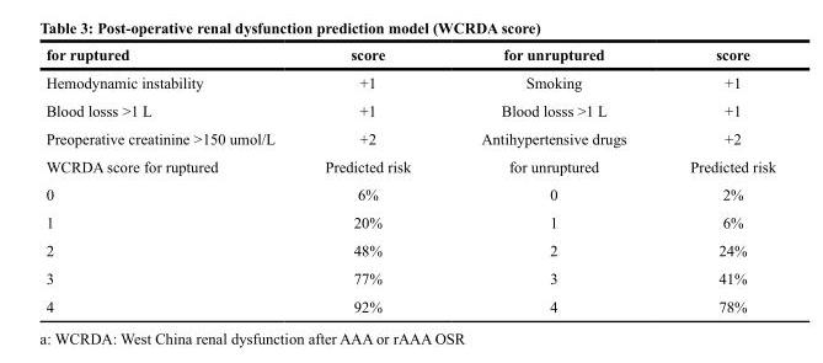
<table><thead><tr><td>for ruptured</td><td>score</td><td>for unruptured</td><td>score</td></tr></thead><tbody><tr><td>Hemodynamic instability</td><td>+1</td><td>Smoking</td><td>+1</td></tr><tr><td>Blood losss &gt;1 L</td><td>+1</td><td>Blood losss &gt;1 L</td><td>+1</td></tr><tr><td>Preoperative creatinine &gt;150 umol/L</td><td>+2</td><td>Antihypertensive drugs</td><td>+2</td></tr><tr><td>WCRDA score for ruptured</td><td>Predicted risk</td><td>for unruptured</td><td>Predicted risk</td></tr><tr><td>0</td><td>6%</td><td>0</td><td>2%</td></tr><tr><td>1</td><td>20%</td><td>1</td><td>6%</td></tr><tr><td>2</td><td>48%</td><td>2</td><td>24%</td></tr><tr><td>3</td><td>77%</td><td>3</td><td>41%</td></tr><tr><td>4</td><td>92%</td><td>4</td><td>78%</td></tr></tbody></table>